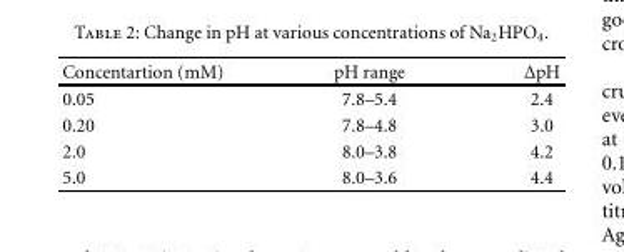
<table><thead><tr><td>Concentartion (mM)</td><td>pH range</td><td>ΔpH</td></tr></thead><tbody><tr><td>0.05</td><td>7.8–5.4</td><td>2.4</td></tr><tr><td>0.20</td><td>7.8–4.8</td><td>3.0</td></tr><tr><td>2.0</td><td>8.0–3.8</td><td>4.2</td></tr><tr><td>5.0</td><td>8.0–3.6</td><td>4.4</td></tr></tbody></table>